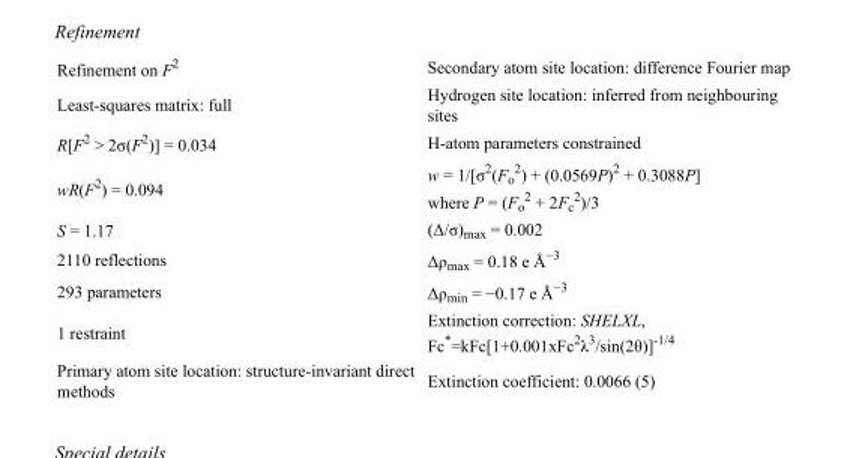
<table><tbody><tr><td>Refinement on F<sup>2</sup></td><td>Secondary atom site location: difference Fourier map</td></tr><tr><td>Least-squares matrix: full</td><td>Hydrogen site location: inferred from neighbouring sites</td></tr><tr><td>R[F<sup>2</sup> &gt; 2σ(F<sup>2</sup>)] = 0.034</td><td>H-atom parameters constrained</td></tr><tr><td>wR(F<sup>2</sup>) = 0.094</td><td>w = 1/[σ<sup>2</sup>(F<sub>o</sub> <sup>2</sup>) + (0.0569P)<sup>2</sup> + 0.3088P] where P = (F<sub>o</sub> <sup>2</sup> + 2F<sub>c</sub> <sup>2</sup>)/3</td></tr><tr><td>S = 1.17</td><td>(Δ/σ)<sub>max</sub> = 0.002</td></tr><tr><td>2110 reflections</td><td>Δρ<sub>max</sub> = 0.18 e Å<sup>−3</sup></td></tr><tr><td>293 parameters</td><td>Δρ<sub>min</sub> = −0.17 e Å<sup>−3</sup></td></tr><tr><td>1 restraint</td><td>Extinction correction: SHELXL, Fc*=kFc[1+0.001xFc<sup>2</sup>λ<sup>3</sup>/sin(2θ)]<sup>-1/4</sup></td></tr><tr><td>Primary atom site location: structure-invariant direct methods</td><td>Extinction coefficient: 0.0066 (5)</td></tr></tbody></table>